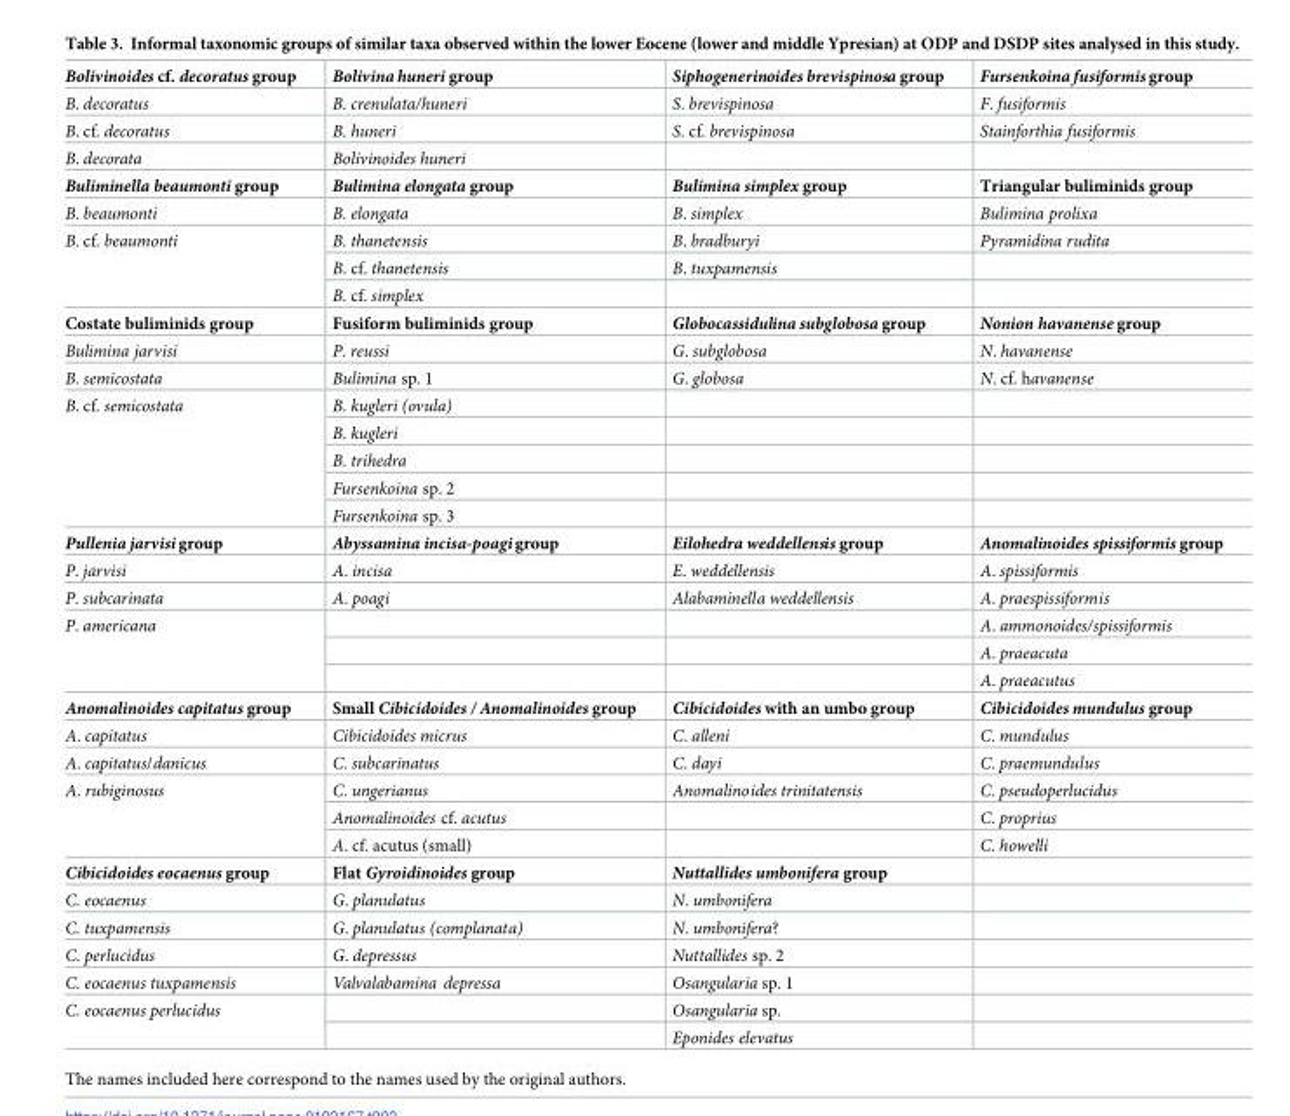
<table><tbody><tr><td>Bolivinoides cf. decoratus group</td><td>Bolivina huneri group</td><td>Siphogenerinoides brevispinosa group</td><td>Fursenkoina fusiformisgroup</td></tr><tr><td>B. decoratus</td><td>B. crenulata/huneri</td><td>S. brevispinosa</td><td>F. fusiformis</td></tr><tr><td>B. cf. decoratus</td><td>B. huneri</td><td>S. cf. brevispinosa</td><td>Stainforthia fusiformis</td></tr><tr><td>B. decorata</td><td>Bolivinoides huneri</td><td></td><td></td></tr><tr><td>Buliminella beaumonti group</td><td>Bulimina elongata group</td><td>Bulimina simplex group</td><td>Triangular buliminids group</td></tr><tr><td>B. beaumonti</td><td>B. elongata</td><td>B. simplex</td><td>Bulimina prolixa</td></tr><tr><td rowspan="3">B. cf. beaumonti</td><td>B. thanetensis</td><td>B. bradburyi</td><td>Pyramidina rudita</td></tr><tr><td>B. cf. thanetensis</td><td>B. tuxpamensis</td><td></td></tr><tr><td>B. cf. simplex</td><td></td><td></td></tr><tr><td>Costate buliminids group</td><td>Fusiform buliminids group</td><td>Globocassidulina subglobosa group</td><td>Nonion havanense group</td></tr><tr><td>Bulimina jarvisi</td><td>P. reussi</td><td>G. subglobosa</td><td>N. havanense</td></tr><tr><td>B. semicostata</td><td>Bulimina sp. 1</td><td>G. globosa</td><td>N. cf. havanense</td></tr><tr><td rowspan="5">B. cf. semicostata</td><td>B. kugleri (ovula)</td><td></td><td></td></tr><tr><td>B. kugleri</td><td></td><td></td></tr><tr><td>B. trihedra</td><td></td><td></td></tr><tr><td>Fursenkoina sp. 2</td><td></td><td></td></tr><tr><td>Fursenkoina sp. 3</td><td></td><td></td></tr><tr><td>Pullenia jarvisigroup</td><td>Abyssamina incisa-poagigroup</td><td>Eilohedra weddellensis group</td><td>Anomalinoides spissiformis group</td></tr><tr><td>P. jarvisi</td><td>A. incisa</td><td>E. weddellensis</td><td>A. spissiformis</td></tr><tr><td>P. subcarinata</td><td>A. poagi</td><td>Alabaminella weddellensis</td><td>A. praespissiformis</td></tr><tr><td rowspan="3">P. americana</td><td></td><td></td><td>A. ammonoides/spissiformis</td></tr><tr><td></td><td></td><td>A. praeacuta</td></tr><tr><td></td><td></td><td>A. praeacutus</td></tr><tr><td>Anomalinoides capitatus group</td><td>Small Cibicidoides / Anomalinoides group</td><td>Cibicidoides with an umbo group</td><td>Cibicidoides mundulus group</td></tr><tr><td>A. capitatus</td><td>Cibicidoides micrus</td><td>C. alleni</td><td>C. mundulus</td></tr><tr><td>A. capitatus/danicus</td><td>C. subcarinatus</td><td>C. dayi</td><td>C. praemundulus</td></tr><tr><td rowspan="3">A. rubiginosus</td><td>C. ungerianus</td><td>Anomalinoides trinitatensis</td><td>C. pseudoperlucidus</td></tr><tr><td>Anomalinoides cf. acutus</td><td></td><td>C. proprius</td></tr><tr><td>A. cf. acutus (small)</td><td></td><td>C. howelli</td></tr><tr><td>Cibicidoides eocaenus group</td><td>Flat Gyroidinoides group</td><td>Nuttallides umbonifera group</td><td></td></tr><tr><td>C. eocaenus</td><td>G. planulatus</td><td>N. umbonifera</td><td></td></tr><tr><td>C. tuxpamensis</td><td>G. planulatus (complanata)</td><td>N. umbonifera?</td><td></td></tr><tr><td>C. perlucidus</td><td>G. depressus</td><td>Nuttallides sp. 2</td><td></td></tr><tr><td>C. eocaenus tuxpamensis</td><td>Valvalabamina depressa</td><td>Osangularia sp. 1</td><td></td></tr><tr><td rowspan="2">C. eocaenus perlucidus</td><td></td><td>Osangularia sp.</td><td></td></tr><tr><td></td><td>Eponides elevatus</td><td></td></tr></tbody></table>